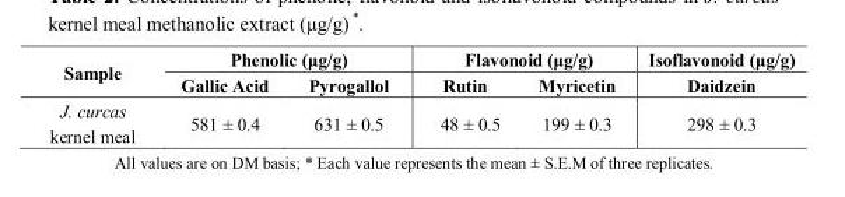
<table><thead><tr><td rowspan="2">Sample</td><td colspan="2">Phenolic (μg/g)</td><td colspan="2">Flavonoid (μg/g)</td><td rowspan="2">Isoflavonoid (μg/g) Daidzein</td></tr><tr><td>Gallic Acid</td><td>Pyrogallol</td><td>Rutin</td><td>Myricetin</td></tr></thead><tbody><tr><td>J. curcas kernel meal</td><td>581 ± 0.4</td><td>631 ± 0.5</td><td>48 ± 0.5</td><td>199 ± 0.3</td><td>298 ± 0.3</td></tr></tbody></table>